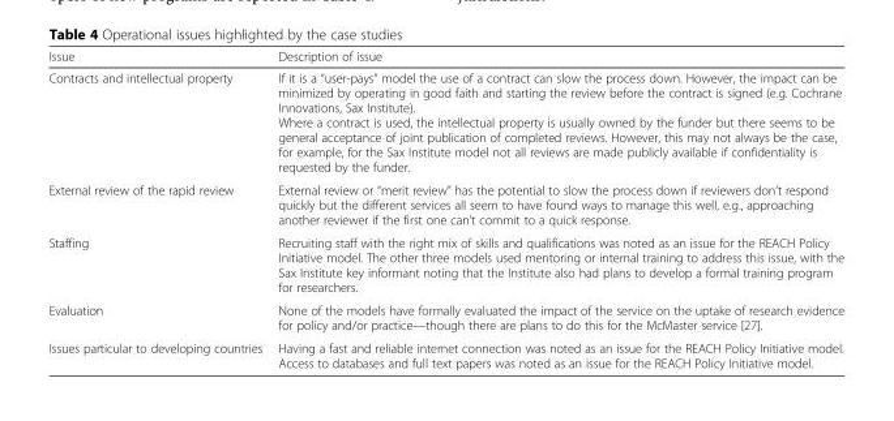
<table><thead><tr><td>Issue</td><td>Description of issue</td></tr></thead><tbody><tr><td>Contracts and intellectual property</td><td>If it is a “user-pays” model the use of a contract can slow the process down. However, the impact can be minimized by operating in good faith and starting the review before the contract is signed (e.g. Cochrane Innovations, Sax Institute). Where a contract is used, the intellectual property is usually owned by the funder but there seems to be general acceptance of joint publication of completed reviews. However, this may not always be the case, for example, for the Sax Institute model not all reviews are made publicly available if confidentiality is requested by the funder.</td></tr><tr><td>External review of the rapid review</td><td>External review or “merit review” has the potential to slow the process down if reviewers don’t respond quickly but the different services all seem to have found ways to manage this well, e.g., approaching another reviewer if the first one can’t commit to a quick response.</td></tr><tr><td>Staffing</td><td>Recruiting staff with the right mix of skills and qualifications was noted as an issue for the REACH Policy Initiative model. The other three models used mentoring or internal training to address this issue, with the Sax Institute key informant noting that the Institute also had plans to develop a formal training program for researchers.</td></tr><tr><td>Evaluation</td><td>None of the models have formally evaluated the impact of the service on the uptake of research evidence for policy and/or practice—though there are plans to do this for the McMaster service [27].</td></tr><tr><td>Issues particular to developing countries</td><td>Having a fast and reliable internet connection was noted as an issue for the REACH Policy Initiative model. Access to databases and full text papers was noted as an issue for the REACH Policy Initiative model.</td></tr></tbody></table>